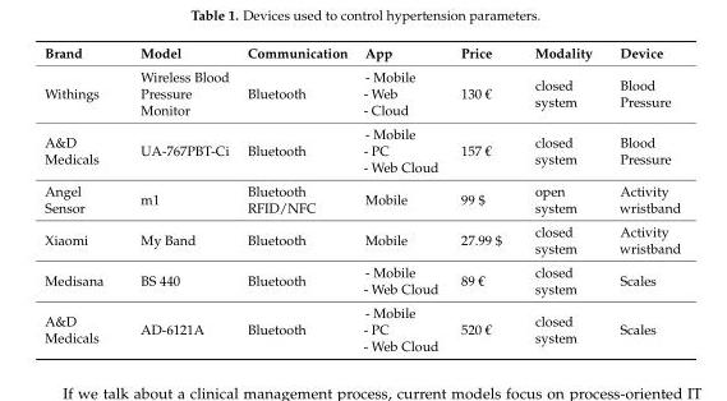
<table><thead><tr><td>Brand</td><td>Model</td><td>Communication</td><td>App</td><td>Price</td><td>Modality</td><td>Device</td></tr></thead><tbody><tr><td>Withings</td><td>Wireless Blood Pressure Monitor</td><td>Bluetooth</td><td>- Mobile - Web - Cloud</td><td>130 €</td><td>closed system</td><td>Blood Pressure</td></tr><tr><td>A&amp;D Medicals</td><td>UA-767PBT-Ci</td><td>Bluetooth</td><td>- Mobile - PC - Web Cloud</td><td>157 €</td><td>closed system</td><td>Blood Pressure</td></tr><tr><td>Angel Sensor</td><td>m1</td><td>Bluetooth RFID/NFC</td><td>Mobile</td><td>99 $</td><td>open system</td><td>Activity wristband</td></tr><tr><td>Xiaomi</td><td>My Band</td><td>Bluetooth</td><td>Mobile</td><td>27.99 $</td><td>closed system</td><td>Activity wristband</td></tr><tr><td>Medisana</td><td>BS 440</td><td>Bluetooth</td><td>- Mobile - Web Cloud</td><td>89 €</td><td>closed system</td><td>Scales</td></tr><tr><td>A&amp;D Medicals</td><td>AD-6121A</td><td>Bluetooth</td><td>- Mobile - PC - Web Cloud</td><td>520 €</td><td>closed system</td><td>Scales</td></tr></tbody></table>